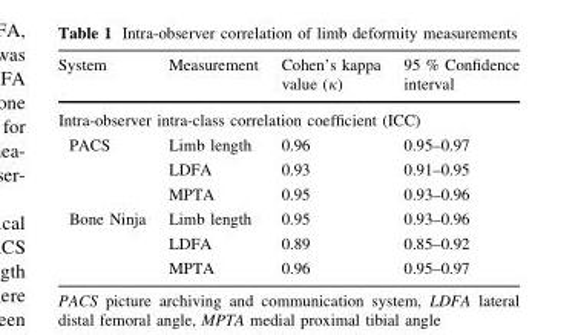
<table><thead><tr><td>System</td><td>Measurement</td><td>Cohen’s kappa value (κ)</td><td>95 % Confidence interval</td></tr></thead><tbody><tr><td colspan="4">Intra-observer intra-class correlation coefficient (ICC)</td></tr><tr><td rowspan="3">PACS</td><td>Limb length</td><td>0.96</td><td>0.95–0.97</td></tr><tr><td>LDFA</td><td>0.93</td><td>0.91–0.95</td></tr><tr><td>MPTA</td><td>0.95</td><td>0.93–0.96</td></tr><tr><td rowspan="3">Bone Ninja</td><td>Limb length</td><td>0.95</td><td>0.93–0.96</td></tr><tr><td>LDFA</td><td>0.89</td><td>0.85–0.92</td></tr><tr><td>MPTA</td><td>0.96</td><td>0.95–0.97</td></tr></tbody></table>